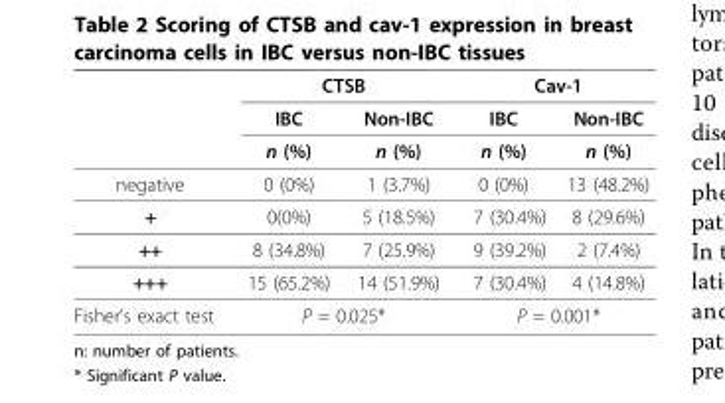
<table><thead><tr><td rowspan="3"></td><td colspan="2">CTSB</td><td colspan="2">Cav-1</td></tr><tr><td rowspan="2">IBC n (%)</td><td rowspan="2">Non-IBC n (%)</td><td rowspan="2">IBC n (%)</td><td rowspan="2">Non-IBC n (%)</td></tr><tr></tr></thead><tbody><tr><td>negative</td><td>0 (0%)</td><td>1 (3.7%)</td><td>0 (0%)</td><td>13 (48.2%)</td></tr><tr><td>+</td><td>0(0%)</td><td>5 (18.5%)</td><td>7 (30.4%)</td><td>8 (29.6%)</td></tr><tr><td>++</td><td>8 (34.8%)</td><td>7 (25.9%)</td><td>9 (39.2%)</td><td>2 (7.4%)</td></tr><tr><td>+++</td><td>15 (65.2%)</td><td>14 (51.9%)</td><td>7 (30.4%)</td><td>4 (14.8%)</td></tr><tr><td>Fisher’s exact test</td><td colspan="2">P = 0.025*</td><td colspan="2">P = 0.001*</td></tr></tbody></table>